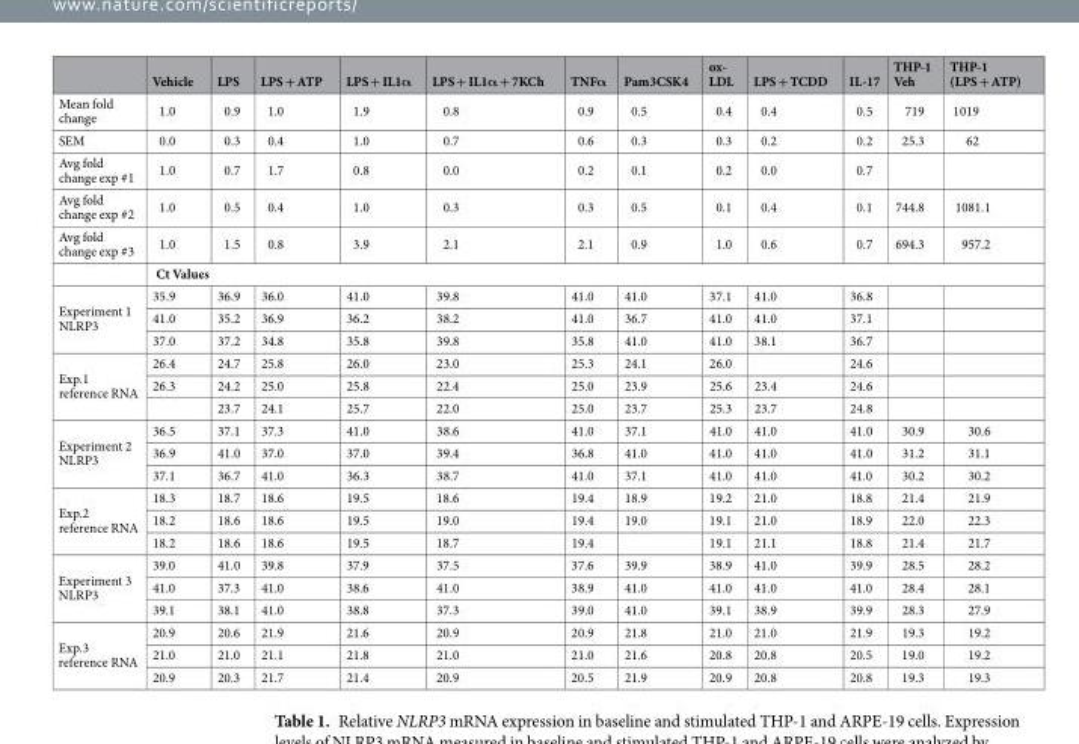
<table><thead><tr><td></td><td>Vehicle</td><td>LPS</td><td>LPS + ATP</td><td>LPS + IL1α</td><td>LPS + IL1α + 7KCh</td><td>TNFα</td><td>Pam3CSK4</td><td>ox- LDL</td><td>LPS + TCDD</td><td>IL-17</td><td>THP-1 Veh</td><td>THP-1 (LPS + ATP)</td></tr></thead><tbody><tr><td>Mean fold change</td><td>1.0</td><td>0.9</td><td>1.0</td><td>1.9</td><td>0.8</td><td>0.9</td><td>0.5</td><td>0.4</td><td>0.4</td><td>0.5</td><td>719</td><td>1019</td></tr><tr><td>SEM</td><td>0.0</td><td>0.3</td><td>0.4</td><td>1.0</td><td>0.7</td><td>0.6</td><td>0.3</td><td>0.3</td><td>0.2</td><td>0.2</td><td>25.3</td><td>62</td></tr><tr><td>Avg fold change exp #1</td><td>1.0</td><td>0.7</td><td>1.7</td><td>0.8</td><td>0.0</td><td>0.2</td><td>0.1</td><td>0.2</td><td>0.0</td><td>0.7</td><td></td><td></td></tr><tr><td>Avg fold change exp #2</td><td>1.0</td><td>0.5</td><td>0.4</td><td>1.0</td><td>0.3</td><td>0.3</td><td>0.5</td><td>0.1</td><td>0.4</td><td>0.1</td><td>744.8</td><td>1081.1</td></tr><tr><td rowspan="2">Avg fold change exp #3</td><td>1.0</td><td>1.5</td><td>0.8</td><td>3.9</td><td>2.1</td><td>2.1</td><td>0.9</td><td>1.0</td><td>0.6</td><td>0.7</td><td>694.3</td><td>957.2</td></tr><tr><td colspan="12">Ct Values</td></tr><tr><td rowspan="3">Experiment 1 NLRP3</td><td>35.9</td><td>36.9</td><td>36.0</td><td>41.0</td><td>39.8</td><td>41.0</td><td>41.0</td><td>37.1</td><td>41.0</td><td>36.8</td><td></td><td></td></tr><tr><td>41.0</td><td>35.2</td><td>36.9</td><td>36.2</td><td>38.2</td><td>41.0</td><td>36.7</td><td>41.0</td><td>41.0</td><td>37.1</td><td></td><td></td></tr><tr><td>37.0</td><td>37.2</td><td>34.8</td><td>35.8</td><td>39.8</td><td>35.8</td><td>41.0</td><td>41.0</td><td>38.1</td><td>36.7</td><td></td><td></td></tr><tr><td rowspan="3">Exp.1 reference RNA</td><td>26.4</td><td>24.7</td><td>25.8</td><td>26.0</td><td>23.0</td><td>25.3</td><td>24.1</td><td>26.0</td><td></td><td>24.6</td><td></td><td></td></tr><tr><td>26.3</td><td>24.2</td><td>25.0</td><td>25.8</td><td>22.4</td><td>25.0</td><td>23.9</td><td>25.6</td><td>23.4</td><td>24.6</td><td></td><td></td></tr><tr><td></td><td>23.7</td><td>24.1</td><td>25.7</td><td>22.0</td><td>25.0</td><td>23.7</td><td>25.3</td><td>23.7</td><td>24.8</td><td></td><td></td></tr><tr><td rowspan="3">Experiment 2 NLRP3</td><td>36.5</td><td>37.1</td><td>37.3</td><td>41.0</td><td>38.6</td><td>41.0</td><td>37.1</td><td>41.0</td><td>41.0</td><td>41.0</td><td>30.9</td><td>30.6</td></tr><tr><td>36.9</td><td>41.0</td><td>37.0</td><td>37.0</td><td>39.4</td><td>36.8</td><td>41.0</td><td>41.0</td><td>41.0</td><td>41.0</td><td>31.2</td><td>31.1</td></tr><tr><td>37.1</td><td>36.7</td><td>41.0</td><td>36.3</td><td>38.7</td><td>41.0</td><td>37.1</td><td>41.0</td><td>41.0</td><td>41.0</td><td>30.2</td><td>30.2</td></tr><tr><td rowspan="3">Exp.2 reference RNA</td><td>18.3</td><td>18.7</td><td>18.6</td><td>19.5</td><td>18.6</td><td>19.4</td><td>18.9</td><td>19.2</td><td>21.0</td><td>18.8</td><td>21.4</td><td>21.9</td></tr><tr><td>18.2</td><td>18.6</td><td>18.6</td><td>19.5</td><td>19.0</td><td>19.4</td><td>19.0</td><td>19.1</td><td>21.0</td><td>18.9</td><td>22.0</td><td>22.3</td></tr><tr><td>18.2</td><td>18.6</td><td>18.6</td><td>19.5</td><td>18.7</td><td>19.4</td><td></td><td>19.1</td><td>21.1</td><td>18.8</td><td>21.4</td><td>21.7</td></tr><tr><td rowspan="3">Experiment 3 NLRP3</td><td>39.0</td><td>41.0</td><td>39.8</td><td>37.9</td><td>37.5</td><td>37.6</td><td>39.9</td><td>38.9</td><td>41.0</td><td>39.9</td><td>28.5</td><td>28.2</td></tr><tr><td>41.0</td><td>37.3</td><td>41.0</td><td>38.6</td><td>41.0</td><td>38.9</td><td>41.0</td><td>41.0</td><td>41.0</td><td>41.0</td><td>28.4</td><td>28.1</td></tr><tr><td>39.1</td><td>38.1</td><td>41.0</td><td>38.8</td><td>37.3</td><td>39.0</td><td>41.0</td><td>39.1</td><td>38.9</td><td>39.9</td><td>28.3</td><td>27.9</td></tr><tr><td rowspan="3">Exp.3 reference RNA</td><td>20.9</td><td>20.6</td><td>21.9</td><td>21.6</td><td>20.9</td><td>20.9</td><td>21.8</td><td>21.0</td><td>21.0</td><td>21.9</td><td>19.3</td><td>19.2</td></tr><tr><td>21.0</td><td>21.0</td><td>21.1</td><td>21.8</td><td>21.0</td><td>21.0</td><td>21.6</td><td>20.8</td><td>20.8</td><td>20.5</td><td>19.0</td><td>19.2</td></tr><tr><td>20.9</td><td>20.3</td><td>21.7</td><td>21.4</td><td>20.9</td><td>20.5</td><td>21.9</td><td>20.9</td><td>20.8</td><td>20.8</td><td>19.3</td><td>19.3</td></tr></tbody></table>